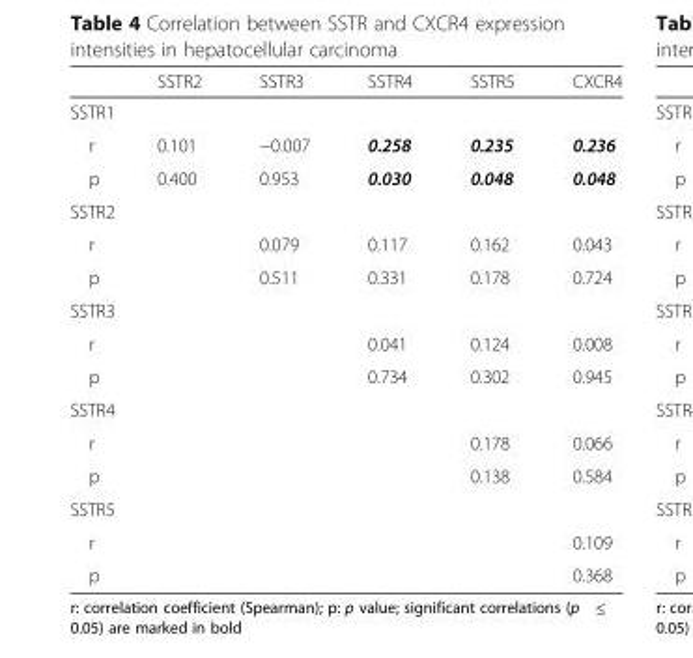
<table><thead><tr><td></td><td>SSTR2</td><td>SSTR3</td><td>SSTR4</td><td>SSTR5</td><td>CXCR4</td></tr></thead><tbody><tr><td colspan="6">SSTR1</td></tr><tr><td>r</td><td>0.101</td><td>−0.007</td><td>0.258</td><td>0.235</td><td>0.236</td></tr><tr><td>p</td><td>0.400</td><td>0.953</td><td>0.030</td><td>0.048</td><td>0.048</td></tr><tr><td colspan="6">SSTR2</td></tr><tr><td>r</td><td></td><td>0.079</td><td>0.117</td><td>0.162</td><td>0.043</td></tr><tr><td>p</td><td></td><td>0.511</td><td>0.331</td><td>0.178</td><td>0.724</td></tr><tr><td colspan="6">SSTR3</td></tr><tr><td>r</td><td></td><td></td><td>0.041</td><td>0.124</td><td>0.008</td></tr><tr><td>p</td><td></td><td></td><td>0.734</td><td>0.302</td><td>0.945</td></tr><tr><td colspan="6">SSTR4</td></tr><tr><td>r</td><td></td><td></td><td></td><td>0.178</td><td>0.066</td></tr><tr><td>p</td><td></td><td></td><td></td><td>0.138</td><td>0.584</td></tr><tr><td colspan="6">SSTR5</td></tr><tr><td>r</td><td></td><td></td><td></td><td></td><td>0.109</td></tr><tr><td>p</td><td></td><td></td><td></td><td></td><td>0.368</td></tr></tbody></table>